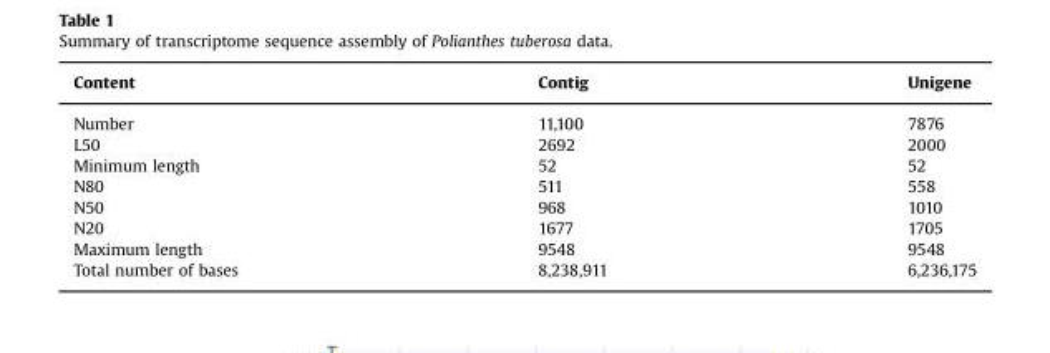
<table><thead><tr><td>Content</td><td>Contig</td><td>Unigene</td></tr></thead><tbody><tr><td>Number</td><td>11,100</td><td>7876</td></tr><tr><td>L50</td><td>2692</td><td>2000</td></tr><tr><td>Minimum length</td><td>52</td><td>52</td></tr><tr><td>N80</td><td>511</td><td>558</td></tr><tr><td>N50</td><td>968</td><td>1010</td></tr><tr><td>N20</td><td>1677</td><td>1705</td></tr><tr><td>Maximum length</td><td>9548</td><td>9548</td></tr><tr><td>Total number of bases</td><td>8,238,911</td><td>6,236,175</td></tr></tbody></table>